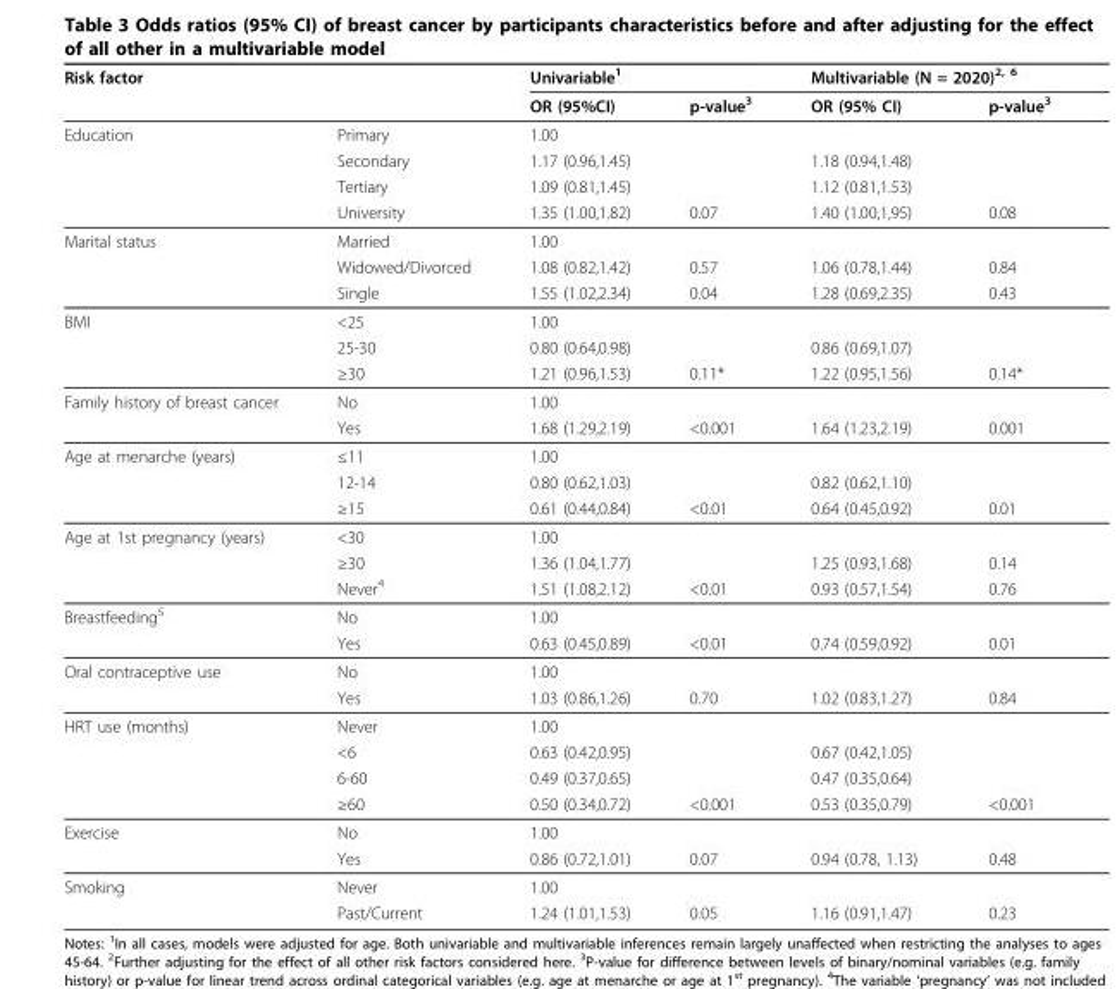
<table><thead><tr><td colspan="2">Risk factor</td><td colspan="2">Univariable<sup>1</sup></td><td colspan="2">Multivariable (N = 2020)<sup>2, 6</sup></td></tr><tr><td></td><td></td><td>OR (95%CI)</td><td>p-value<sup>3</sup></td><td>OR (95% CI)</td><td>p-value<sup>3</sup></td></tr></thead><tbody><tr><td rowspan="4">Education</td><td>Primary</td><td>1.00</td><td></td><td></td><td></td></tr><tr><td>Secondary</td><td>1.17 (0.96,1.45)</td><td></td><td>1.18 (0.94,1.48)</td><td></td></tr><tr><td>Tertiary</td><td>1.09 (0.81,1.45)</td><td></td><td>1.12 (0.81,1.53)</td><td></td></tr><tr><td>University</td><td>1.35 (1.00,1.82)</td><td>0.07</td><td>1.40 (1.00,1,95)</td><td>0.08</td></tr><tr><td rowspan="3">Marital status</td><td>Married</td><td>1.00</td><td></td><td></td><td></td></tr><tr><td>Widowed/Divorced</td><td>1.08 (0.82,1.42)</td><td>0.57</td><td>1.06 (0.78,1.44)</td><td>0.84</td></tr><tr><td>Single</td><td>1.55 (1.02,2.34)</td><td>0.04</td><td>1.28 (0.69,2.35)</td><td>0.43</td></tr><tr><td rowspan="3">BMI</td><td>&lt;25</td><td>1.00</td><td></td><td></td><td></td></tr><tr><td>25-30</td><td>0.80 (0.64,0.98)</td><td></td><td>0.86 (0.69,1.07)</td><td></td></tr><tr><td>≥30</td><td>1.21 (0.96,1.53)</td><td>0.11*</td><td>1.22 (0.95,1.56)</td><td>0.14*</td></tr><tr><td rowspan="2">Family history of breast cancer</td><td>No</td><td>1.00</td><td></td><td></td><td></td></tr><tr><td>Yes</td><td>1.68 (1.29,2.19)</td><td>&lt;0.001</td><td>1.64 (1.23,2.19)</td><td>0.001</td></tr><tr><td rowspan="3">Age at menarche (years)</td><td>≤11</td><td>1.00</td><td></td><td></td><td></td></tr><tr><td>12-14</td><td>0.80 (0.62,1.03)</td><td></td><td>0.82 (0.62,1.10)</td><td></td></tr><tr><td>≥15</td><td>0.61 (0.44,0.84)</td><td>&lt;0.01</td><td>0.64 (0.45,0.92)</td><td>0.01</td></tr><tr><td rowspan="3">Age at 1st pregnancy (years)</td><td>&lt;30</td><td>1.00</td><td></td><td></td><td></td></tr><tr><td>≥30</td><td>1.36 (1.04,1.77)</td><td></td><td>1.25 (0.93,1.68)</td><td>0.14</td></tr><tr><td>Never<sup>4</sup></td><td>1.51 (1.08,2.12)</td><td>&lt;0.01</td><td>0.93 (0.57,1.54)</td><td>0.76</td></tr><tr><td rowspan="2">Breastfeeding<sup>5</sup></td><td>No</td><td>1.00</td><td></td><td></td><td></td></tr><tr><td>Yes</td><td>0.63 (0.45,0.89)</td><td>&lt;0.01</td><td>0.74 (0.59,0.92)</td><td>0.01</td></tr><tr><td rowspan="2">Oral contraceptive use</td><td>No</td><td>1.00</td><td></td><td></td><td></td></tr><tr><td>Yes</td><td>1.03 (0.86,1.26)</td><td>0.70</td><td>1.02 (0.83,1.27)</td><td>0.84</td></tr><tr><td rowspan="4">HRT use (months)</td><td>Never</td><td>1.00</td><td></td><td></td><td></td></tr><tr><td>&lt;6</td><td>0.63 (0.42,0.95)</td><td></td><td>0.67 (0.42,1.05)</td><td></td></tr><tr><td>6-60</td><td>0.49 (0.37,0.65)</td><td></td><td>0.47 (0.35,0.64)</td><td></td></tr><tr><td>≥60</td><td>0.50 (0.34,0.72)</td><td>&lt;0.001</td><td>0.53 (0.35,0.79)</td><td>&lt;0.001</td></tr><tr><td rowspan="2">Exercise</td><td>No</td><td>1.00</td><td></td><td></td><td></td></tr><tr><td>Yes</td><td>0.86 (0.72,1.01)</td><td>0.07</td><td>0.94 (0.78, 1.13)</td><td>0.48</td></tr><tr><td rowspan="2">Smoking</td><td>Never</td><td>1.00</td><td></td><td></td><td></td></tr><tr><td>Past/Current</td><td>1.24 (1.01,1.53)</td><td>0.05</td><td>1.16 (0.91,1.47)</td><td>0.23</td></tr></tbody></table>